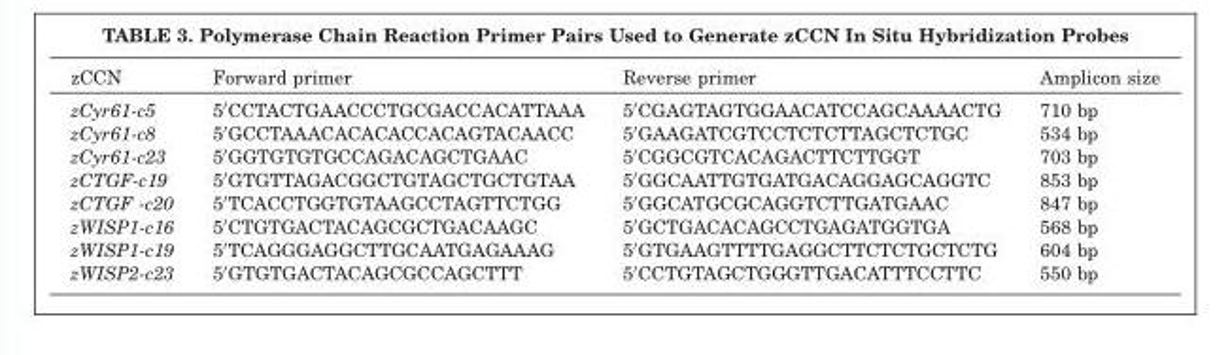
<table><thead><tr><td>zCCN</td><td>Forward primer</td><td>Reverse primer</td><td>Amplicon size</td></tr></thead><tbody><tr><td>zCyr61-c5</td><td>5′CCTACTGAACCCTGCGACCACATTAAA</td><td>5′CGAGTAGTGGAACATCCAGCAAAACTG</td><td>710 bp</td></tr><tr><td>zCyr61-c8</td><td>5′GCCTAAACACACACCACAGTACAACC</td><td>5′GAAGATCGTCCTCTCTTAGCTCTGC</td><td>534 bp</td></tr><tr><td>zCyr61-c23</td><td>5′GGTGTGTGCCAGACAGCTGAAC</td><td>5′CGGCGTCACAGACTTCTTGGT</td><td>703 bp</td></tr><tr><td>zCTGF-c19</td><td>5′GTGTTAGACGGCTGTAGCTGCTGTAA</td><td>5′GGCAATTGTGATGACAGGAGCAGGTC</td><td>853 bp</td></tr><tr><td>zCTGF -c20</td><td>5′TCACCTGGTGTAAGCCTAGTTCTGG</td><td>5′GGCATGCGCAGGTCTTGATGAAC</td><td>847 bp</td></tr><tr><td>zWISP1-c16</td><td>5′CTGTGACTACAGCGCTGACAAGC</td><td>5′GCTGACACAGCCTGAGATGGTGA</td><td>568 bp</td></tr><tr><td>zWISP1-c19</td><td>5′TCAGGGAGGCTTGCAATGAGAAAG</td><td>5′GTGAAGTTTTGAGGCTTCTCTGCTCTG</td><td>604 bp</td></tr><tr><td>zWISP2-c23</td><td>5′GTGTGACTACAGCGCCAGCTTT</td><td>5′CCTGTAGCTGGGTTGACATTTCCTTC</td><td>550 bp</td></tr></tbody></table>